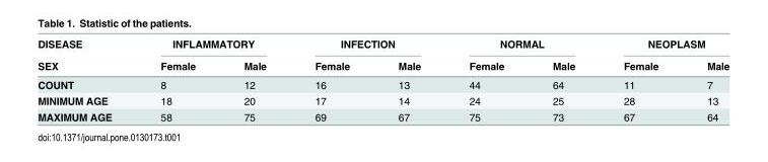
<table><thead><tr><td rowspan="2">DISEASE SEX</td><td colspan="2">INFLAMMATORY</td><td colspan="2">INFECTION</td><td colspan="2">NORMAL</td><td colspan="2">NEOPLASM</td></tr><tr><td>Female</td><td>Male</td><td>Female</td><td>Male</td><td>Female</td><td>Male</td><td>Female</td><td>Male</td></tr></thead><tbody><tr><td>COUNT</td><td>8</td><td>12</td><td>16</td><td>13</td><td>44</td><td>64</td><td>11</td><td>7</td></tr><tr><td>MINIMUM AGE</td><td>18</td><td>20</td><td>17</td><td>14</td><td>24</td><td>25</td><td>28</td><td>13</td></tr><tr><td>MAXIMUM AGE</td><td>58</td><td>75</td><td>69</td><td>67</td><td>75</td><td>73</td><td>67</td><td>64</td></tr></tbody></table>